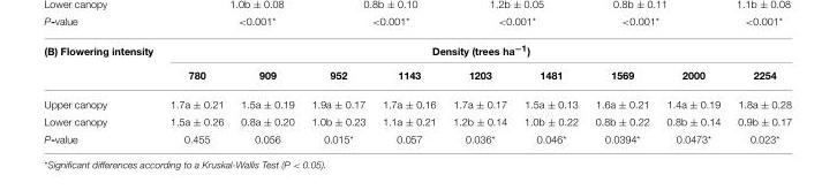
<table><thead><tr><td rowspan="2">(B) Flowering intensity</td><td colspan="9">Density (trees ha<sup>−1</sup>)</td></tr><tr><td>780</td><td>909</td><td>952</td><td>1143</td><td>1203</td><td>1481</td><td>1569</td><td>2000</td><td>2254</td></tr></thead><tbody><tr><td>Upper canopy</td><td>1.7a ± 0.21</td><td>1.5a ± 0.19</td><td>1.9a ± 0.17</td><td>1.7a ± 0.16</td><td>1.7a ± 0.17</td><td>1.5a ± 0.13</td><td>1.6a ± 0.21</td><td>1.4a ± 0.19</td><td>1.8a ± 0.28</td></tr><tr><td>Lower canopy</td><td>1.5a ± 0.26</td><td>0.8a ± 0.20</td><td>1.0b ± 0.23</td><td>1.1a ± 0.21</td><td>1.2b ± 0.14</td><td>1.0b ± 0.22</td><td>0.8b ± 0.22</td><td>0.8b ± 0.14</td><td>0.9b ± 0.17</td></tr><tr><td>P-value</td><td>0.455</td><td>0.056</td><td>0.015*</td><td>0.057</td><td>0.036*</td><td>0.046*</td><td>0.0394*</td><td>0.0473*</td><td>0.023*</td></tr></tbody></table>